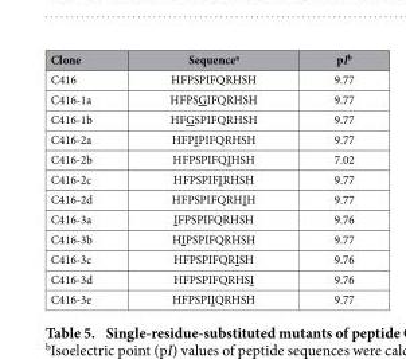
<table><thead><tr><td>Clone</td><td>Sequence<sup>a</sup></td><td>pI<sup>b</sup></td></tr></thead><tbody><tr><td>C416</td><td>HFPSPIFQRHSH</td><td>9.77</td></tr><tr><td>C416-1a</td><td>HFPSGIFQRHSH</td><td>9.77</td></tr><tr><td>C416-1b</td><td>HFGSPIFQRHSH</td><td>9.77</td></tr><tr><td>C416-2a</td><td>HFPIPIFQRHSH</td><td>9.77</td></tr><tr><td>C416-2b</td><td>HFPSPIFQIHSH</td><td>7.02</td></tr><tr><td>C416-2c</td><td>HFPSPIFIRHSH</td><td>9.77</td></tr><tr><td>C416-2d</td><td>HFPSPIFQRHIH</td><td>9.77</td></tr><tr><td>C416-3a</td><td>IFPSPIFQRHSH</td><td>9.76</td></tr><tr><td>C416-3b</td><td>HIPSPIFQRHSH</td><td>9.77</td></tr><tr><td>C416-3c</td><td>HFPSPIFQRISH</td><td>9.76</td></tr><tr><td>C416-3d</td><td>HFPSPIFQRHSI</td><td>9.76</td></tr><tr><td>C416-3e</td><td>HFPSPIIQRHSH</td><td>9.77</td></tr></tbody></table>